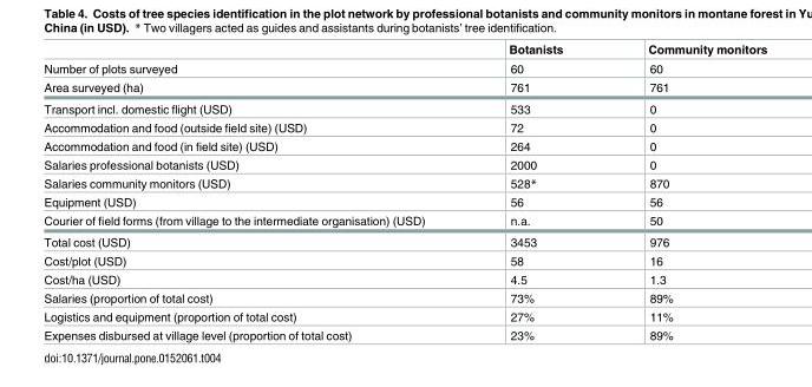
<table><thead><tr><td></td><td>Botanists</td><td>Community monitors</td></tr></thead><tbody><tr><td>Number of plots surveyed</td><td>60</td><td>60</td></tr><tr><td>Area surveyed (ha)</td><td>761</td><td>761</td></tr><tr><td>Transport incl. domestic flight (USD)</td><td>533</td><td>0</td></tr><tr><td>Accommodation and food (outside field site) (USD)</td><td>72</td><td>0</td></tr><tr><td>Accommodation and food (in field site) (USD)</td><td>264</td><td>0</td></tr><tr><td>Salaries professional botanists (USD)</td><td>2000</td><td>0</td></tr><tr><td>Salaries community monitors (USD)</td><td>528*</td><td>870</td></tr><tr><td>Equipment (USD)</td><td>56</td><td>56</td></tr><tr><td>Courier of field forms (from village to the intermediate organisation) (USD)</td><td>n.a.</td><td>50</td></tr><tr><td>Total cost (USD)</td><td>3453</td><td>976</td></tr><tr><td>Cost/plot (USD)</td><td>58</td><td>16</td></tr><tr><td>Cost/ha (USD)</td><td>4.5</td><td>1.3</td></tr><tr><td>Salaries (proportion of total cost)</td><td>73%</td><td>89%</td></tr><tr><td>Logistics and equipment (proportion of total cost)</td><td>27%</td><td>11%</td></tr><tr><td>Expenses disbursed at village level (proportion of total cost)</td><td>23%</td><td>89%</td></tr></tbody></table>